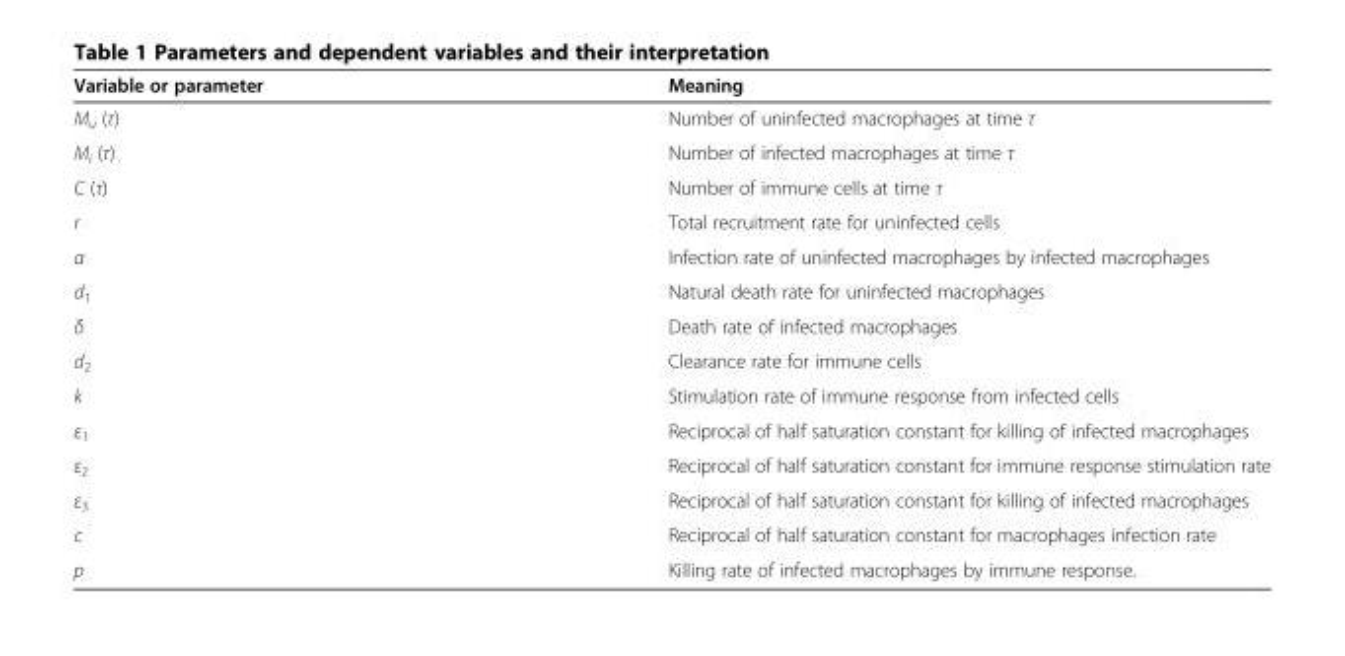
<table><thead><tr><td>Variable or parameter</td><td>Meaning</td></tr></thead><tbody><tr><td>M<sub>u</sub> (τ)</td><td>Number of uninfected macrophages at time τ</td></tr><tr><td>M<sub>i</sub> (τ)</td><td>Number of infected macrophages at time τ</td></tr><tr><td>C (τ)</td><td>Number of immune cells at time τ</td></tr><tr><td>r</td><td>Total recruitment rate for uninfected cells</td></tr><tr><td>α</td><td>Infection rate of uninfected macrophages by infected macrophages</td></tr><tr><td>d<sub>1</sub></td><td>Natural death rate for uninfected macrophages</td></tr><tr><td>δ</td><td>Death rate of infected macrophages</td></tr><tr><td>d<sub>2</sub></td><td>Clearance rate for immune cells</td></tr><tr><td>k</td><td>Stimulation rate of immune response from infected cells</td></tr><tr><td>ε<sub>1</sub></td><td>Reciprocal of half saturation constant for killing of infected macrophages</td></tr><tr><td>ε<sub>2</sub></td><td>Reciprocal of half saturation constant for immune response stimulation rate</td></tr><tr><td>ε<sub>3</sub></td><td>Reciprocal of half saturation constant for killing of infected macrophages</td></tr><tr><td>c</td><td>Reciprocal of half saturation constant for macrophages infection rate</td></tr><tr><td>p</td><td>Killing rate of infected macrophages by immune response.</td></tr></tbody></table>